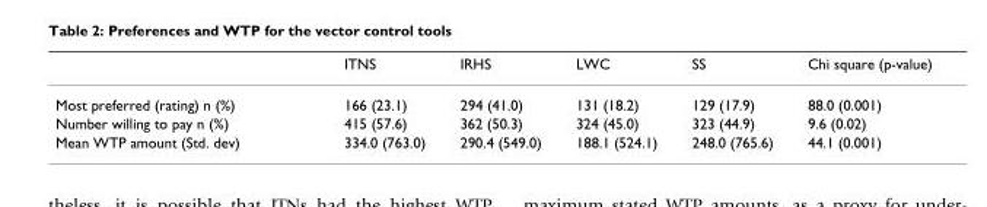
<table><thead><tr><td></td><td>ITNS</td><td>IRHS</td><td>LWC</td><td>SS</td><td>Chi square (p-value)</td></tr></thead><tbody><tr><td>Most preferred (rating) n (%)</td><td>166 (23.1)</td><td>294 (41.0)</td><td>131 (18.2)</td><td>129 (17.9)</td><td>88.0 (0.001)</td></tr><tr><td>Number willing to pay n (%)</td><td>415 (57.6)</td><td>362 (50.3)</td><td>324 (45.0)</td><td>323 (44.9)</td><td>9.6 (0.02)</td></tr><tr><td>Mean WTP amount (Std. dev)</td><td>334.0 (763.0)</td><td>290.4 (549.0)</td><td>188.1 (524.1)</td><td>248.0 (765.6)</td><td>44.1 (0.001)</td></tr></tbody></table>